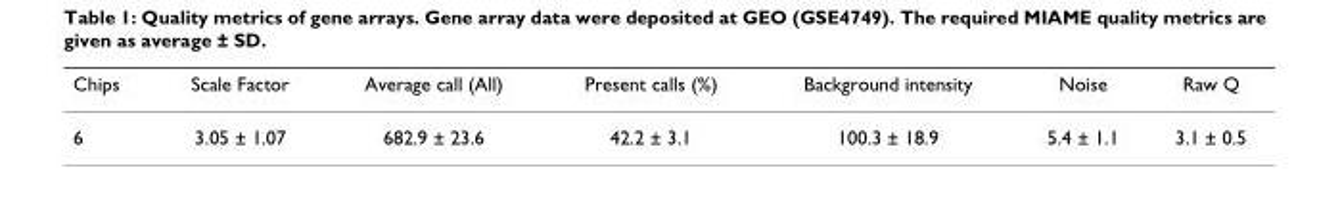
<table><thead><tr><td>Chips</td><td>Scale Factor</td><td>Average call (All)</td><td>Present calls (%)</td><td>Background intensity</td><td>Noise</td><td>Raw Q</td></tr></thead><tbody><tr><td>6</td><td>3.05 ± 1.07</td><td>682.9 ± 23.6</td><td>42.2 ± 3.1</td><td>100.3 ± 18.9</td><td>5.4 ± 1.1</td><td>3.1 ± 0.5</td></tr></tbody></table>